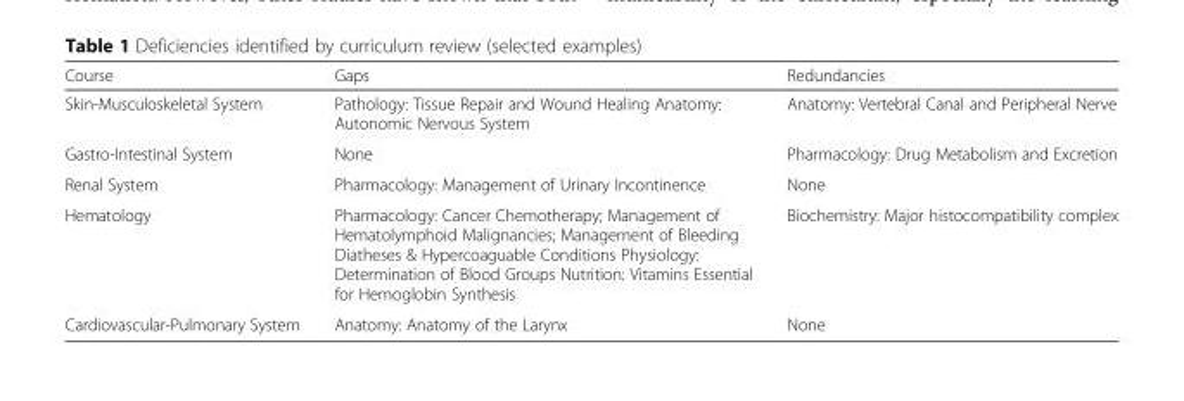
<table><thead><tr><td>Course</td><td>Gaps</td><td>Redundancies</td></tr></thead><tbody><tr><td>Skin-Musculoskeletal System</td><td>Pathology: Tissue Repair and Wound Healing Anatomy: Autonomic Nervous System</td><td>Anatomy: Vertebral Canal and Peripheral Nerve</td></tr><tr><td>Gastro-Intestinal System</td><td>None</td><td>Pharmacology: Drug Metabolism and Excretion</td></tr><tr><td>Renal System</td><td>Pharmacology: Management of Urinary Incontinence</td><td>None</td></tr><tr><td>Hematology</td><td>Pharmacology: Cancer Chemotherapy; Management of Hematolymphoid Malignancies; Management of Bleeding Diatheses &amp; Hypercoaguable Conditions Physiology: Determination of Blood Groups Nutrition: Vitamins Essential for Hemoglobin Synthesis</td><td>Biochemistry: Major histocompatibility complex</td></tr><tr><td>Cardiovascular-Pulmonary System</td><td>Anatomy: Anatomy of the Larynx</td><td>None</td></tr></tbody></table>